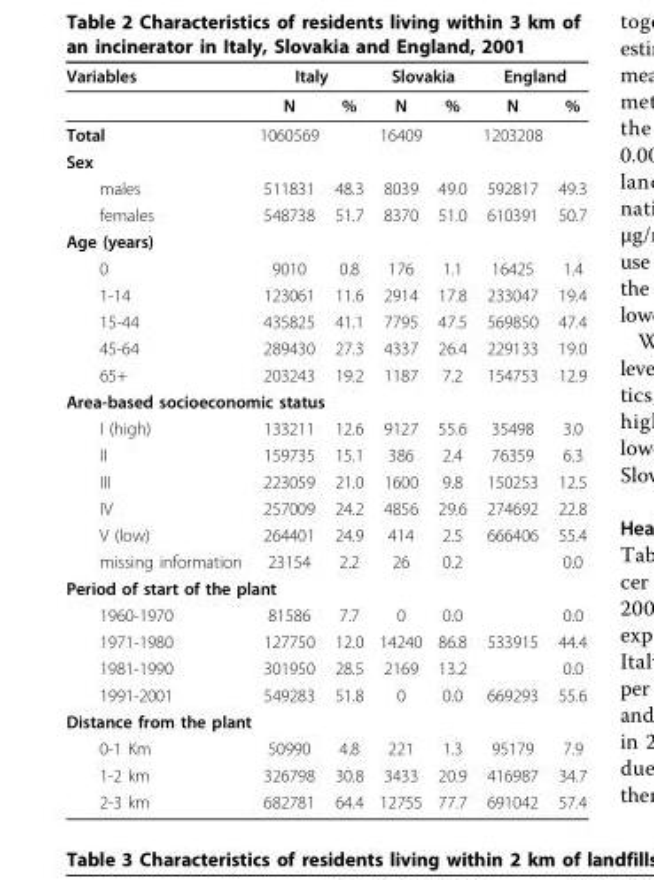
<table><thead><tr><td rowspan="2">Variables</td><td colspan="2">Italy</td><td colspan="2">Slovakia</td><td colspan="2">England</td></tr><tr><td>N</td><td>%</td><td>N</td><td>%</td><td>N</td><td>%</td></tr></thead><tbody><tr><td>Total</td><td>1060569</td><td></td><td>16409</td><td></td><td>1203208</td><td></td></tr><tr><td colspan="7">Sex</td></tr><tr><td>males</td><td>511831</td><td>48.3</td><td>8039</td><td>49.0</td><td>592817</td><td>49.3</td></tr><tr><td>females</td><td>548738</td><td>51.7</td><td>8370</td><td>51.0</td><td>610391</td><td>50.7</td></tr><tr><td colspan="7">Age (years)</td></tr><tr><td>0</td><td>9010</td><td>0.8</td><td>176</td><td>1.1</td><td>16425</td><td>1.4</td></tr><tr><td>1-14</td><td>123061</td><td>11.6</td><td>2914</td><td>17.8</td><td>233047</td><td>19.4</td></tr><tr><td>15-44</td><td>435825</td><td>41.1</td><td>7795</td><td>47.5</td><td>569850</td><td>47.4</td></tr><tr><td>45-64</td><td>289430</td><td>27.3</td><td>4337</td><td>26.4</td><td>229133</td><td>19.0</td></tr><tr><td>65+</td><td>203243</td><td>19.2</td><td>1187</td><td>7.2</td><td>154753</td><td>12.9</td></tr><tr><td colspan="7">Area-based socioeconomic status</td></tr><tr><td>I (high)</td><td>133211</td><td>12.6</td><td>9127</td><td>55.6</td><td>35498</td><td>3.0</td></tr><tr><td>II</td><td>159735</td><td>15.1</td><td>386</td><td>2.4</td><td>76359</td><td>6.3</td></tr><tr><td>III</td><td>223059</td><td>21.0</td><td>1600</td><td>9.8</td><td>150253</td><td>12.5</td></tr><tr><td>IV</td><td>257009</td><td>24.2</td><td>4856</td><td>29.6</td><td>274692</td><td>22.8</td></tr><tr><td>V (low)</td><td>264401</td><td>24.9</td><td>414</td><td>2.5</td><td>666406</td><td>55.4</td></tr><tr><td>missing information</td><td>23154</td><td>2.2</td><td>26</td><td>0.2</td><td></td><td>0.0</td></tr><tr><td colspan="7">Period of start of the plant</td></tr><tr><td>1960-1970</td><td>81586</td><td>7.7</td><td>0</td><td>0.0</td><td></td><td>0.0</td></tr><tr><td>1971-1980</td><td>127750</td><td>12.0</td><td>14240</td><td>86.8</td><td>533915</td><td>44.4</td></tr><tr><td>1981-1990</td><td>301950</td><td>28.5</td><td>2169</td><td>13.2</td><td></td><td>0.0</td></tr><tr><td>1991-2001</td><td>549283</td><td>51.8</td><td>0</td><td>0.0</td><td>669293</td><td>55.6</td></tr><tr><td colspan="7">Distance from the plant</td></tr><tr><td>0-1 Km</td><td>50990</td><td>4.8</td><td>221</td><td>1.3</td><td>95179</td><td>7.9</td></tr><tr><td>1-2 km</td><td>326798</td><td>30.8</td><td>3433</td><td>20.9</td><td>416987</td><td>34.7</td></tr><tr><td>2-3 km</td><td>682781</td><td>64.4</td><td>12755</td><td>77.7</td><td>691042</td><td>57.4</td></tr></tbody></table>